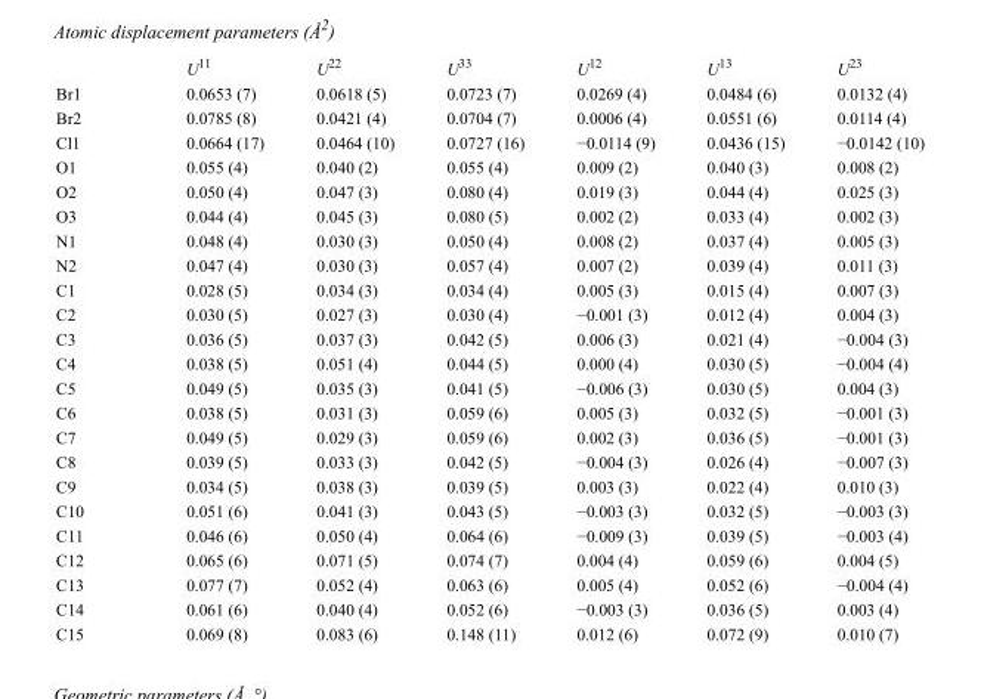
<table><thead><tr><td></td><td>U<sup>11</sup></td><td>U<sup>22</sup></td><td>U<sup>33</sup></td><td>U<sup>12</sup></td><td>U<sup>13</sup></td><td>U<sup>23</sup></td></tr></thead><tbody><tr><td>Br1</td><td>0.0653 (7)</td><td>0.0618 (5)</td><td>0.0723 (7)</td><td>0.0269 (4)</td><td>0.0484 (6)</td><td>0.0132 (4)</td></tr><tr><td>Br2</td><td>0.0785 (8)</td><td>0.0421 (4)</td><td>0.0704 (7)</td><td>0.0006 (4)</td><td>0.0551 (6)</td><td>0.0114 (4)</td></tr><tr><td>Cl1</td><td>0.0664 (17)</td><td>0.0464 (10)</td><td>0.0727 (16)</td><td>−0.0114 (9)</td><td>0.0436 (15)</td><td>−0.0142 (10)</td></tr><tr><td>O1</td><td>0.055 (4)</td><td>0.040 (2)</td><td>0.055 (4)</td><td>0.009 (2)</td><td>0.040 (3)</td><td>0.008 (2)</td></tr><tr><td>O2</td><td>0.050 (4)</td><td>0.047 (3)</td><td>0.080 (4)</td><td>0.019 (3)</td><td>0.044 (4)</td><td>0.025 (3)</td></tr><tr><td>O3</td><td>0.044 (4)</td><td>0.045 (3)</td><td>0.080 (5)</td><td>0.002 (2)</td><td>0.033 (4)</td><td>0.002 (3)</td></tr><tr><td>N1</td><td>0.048 (4)</td><td>0.030 (3)</td><td>0.050 (4)</td><td>0.008 (2)</td><td>0.037 (4)</td><td>0.005 (3)</td></tr><tr><td>N2</td><td>0.047 (4)</td><td>0.030 (3)</td><td>0.057 (4)</td><td>0.007 (2)</td><td>0.039 (4)</td><td>0.011 (3)</td></tr><tr><td>C1</td><td>0.028 (5)</td><td>0.034 (3)</td><td>0.034 (4)</td><td>0.005 (3)</td><td>0.015 (4)</td><td>0.007 (3)</td></tr><tr><td>C2</td><td>0.030 (5)</td><td>0.027 (3)</td><td>0.030 (4)</td><td>−0.001 (3)</td><td>0.012 (4)</td><td>0.004 (3)</td></tr><tr><td>C3</td><td>0.036 (5)</td><td>0.037 (3)</td><td>0.042 (5)</td><td>0.006 (3)</td><td>0.021 (4)</td><td>−0.004 (3)</td></tr><tr><td>C4</td><td>0.038 (5)</td><td>0.051 (4)</td><td>0.044 (5)</td><td>0.000 (4)</td><td>0.030 (5)</td><td>−0.004 (4)</td></tr><tr><td>C5</td><td>0.049 (5)</td><td>0.035 (3)</td><td>0.041 (5)</td><td>−0.006 (3)</td><td>0.030 (5)</td><td>0.004 (3)</td></tr><tr><td>C6</td><td>0.038 (5)</td><td>0.031 (3)</td><td>0.059 (6)</td><td>0.005 (3)</td><td>0.032 (5)</td><td>−0.001 (3)</td></tr><tr><td>C7</td><td>0.049 (5)</td><td>0.029 (3)</td><td>0.059 (6)</td><td>0.002 (3)</td><td>0.036 (5)</td><td>−0.001 (3)</td></tr><tr><td>C8</td><td>0.039 (5)</td><td>0.033 (3)</td><td>0.042 (5)</td><td>−0.004 (3)</td><td>0.026 (4)</td><td>−0.007 (3)</td></tr><tr><td>C9</td><td>0.034 (5)</td><td>0.038 (3)</td><td>0.039 (5)</td><td>0.003 (3)</td><td>0.022 (4)</td><td>0.010 (3)</td></tr><tr><td>C10</td><td>0.051 (6)</td><td>0.041 (3)</td><td>0.043 (5)</td><td>−0.003 (3)</td><td>0.032 (5)</td><td>−0.003 (3)</td></tr><tr><td>C11</td><td>0.046 (6)</td><td>0.050 (4)</td><td>0.064 (6)</td><td>−0.009 (3)</td><td>0.039 (5)</td><td>−0.003 (4)</td></tr><tr><td>C12</td><td>0.065 (6)</td><td>0.071 (5)</td><td>0.074 (7)</td><td>0.004 (4)</td><td>0.059 (6)</td><td>0.004 (5)</td></tr><tr><td>C13</td><td>0.077 (7)</td><td>0.052 (4)</td><td>0.063 (6)</td><td>0.005 (4)</td><td>0.052 (6)</td><td>−0.004 (4)</td></tr><tr><td>C14</td><td>0.061 (6)</td><td>0.040 (4)</td><td>0.052 (6)</td><td>−0.003 (3)</td><td>0.036 (5)</td><td>0.003 (4)</td></tr><tr><td>C15</td><td>0.069 (8)</td><td>0.083 (6)</td><td>0.148 (11)</td><td>0.012 (6)</td><td>0.072 (9)</td><td>0.010 (7)</td></tr></tbody></table>